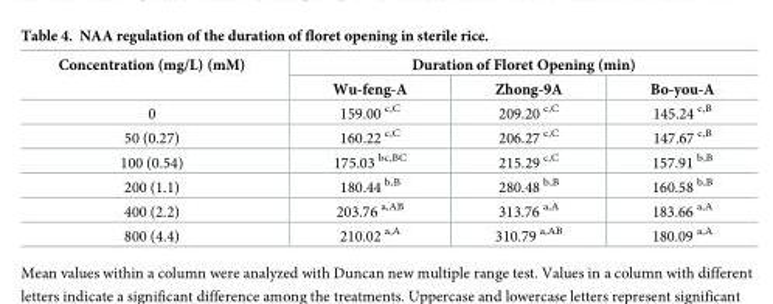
<table><thead><tr><td rowspan="2">Concentration (mg/L) (mM)</td><td colspan="3">Duration of Floret Opening (min)</td></tr><tr><td>Wu-feng-A</td><td>Zhong-9A</td><td>Bo-you-A</td></tr></thead><tbody><tr><td>0</td><td>159.00 <sup>c,C</sup></td><td>209.20 <sup>c,C</sup></td><td>145.24 <sup>c,B</sup></td></tr><tr><td>50 (0.27)</td><td>160.22 <sup>c,C</sup></td><td>206.27 <sup>c,C</sup></td><td>147.67 <sup>c,B</sup></td></tr><tr><td>100 (0.54)</td><td>175.03 <sup>bc,BC</sup></td><td>215.29 <sup>c,C</sup></td><td>157.91 <sup>b,B</sup></td></tr><tr><td>200 (1.1)</td><td>180.44 <sup>b,B</sup></td><td>280.48 <sup>b,B</sup></td><td>160.58 <sup>b,B</sup></td></tr><tr><td>400 (2.2)</td><td>203.76 <sup>a,AB</sup></td><td>313.76 <sup>a,A</sup></td><td>183.66 <sup>a,A</sup></td></tr><tr><td>800 (4.4)</td><td>210.02 <sup>a,A</sup></td><td>310.79 <sup>a,AB</sup></td><td>180.09 <sup>a,A</sup></td></tr></tbody></table>